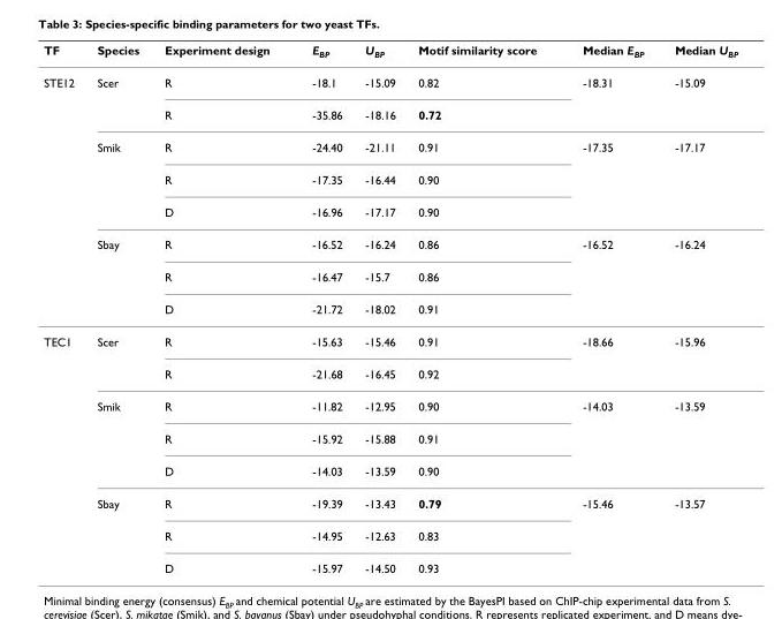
<table><thead><tr><td>TF</td><td>Species</td><td>Experiment design</td><td>E<sub>BP</sub></td><td>U<sub>BP</sub></td><td>Motif similarity score</td><td>Median E<sub>BP</sub></td><td>Median U<sub>BP</sub></td></tr></thead><tbody><tr><td rowspan="8">STE12</td><td>Scer</td><td>R</td><td>-18.1</td><td>-15.09</td><td>0.82</td><td>-18.31</td><td>-15.09</td></tr><tr><td></td><td>R</td><td>-35.86</td><td>-18.16</td><td>0.72</td><td></td><td></td></tr><tr><td>Smik</td><td>R</td><td>-24.40</td><td>-21.11</td><td>0.91</td><td>-17.35</td><td>-17.17</td></tr><tr><td></td><td>R</td><td>-17.35</td><td>-16.44</td><td>0.90</td><td></td><td></td></tr><tr><td></td><td>D</td><td>-16.96</td><td>-17.17</td><td>0.90</td><td></td><td></td></tr><tr><td>Sbay</td><td>R</td><td>-16.52</td><td>-16.24</td><td>0.86</td><td>-16.52</td><td>-16.24</td></tr><tr><td></td><td>R</td><td>-16.47</td><td>-15.7</td><td>0.86</td><td></td><td></td></tr><tr><td></td><td>D</td><td>-21.72</td><td>-18.02</td><td>0.91</td><td></td><td></td></tr><tr><td rowspan="8">TEC1</td><td>Scer</td><td>R</td><td>-15.63</td><td>-15.46</td><td>0.91</td><td>-18.66</td><td>-15.96</td></tr><tr><td></td><td>R</td><td>-21.68</td><td>-16.45</td><td>0.92</td><td></td><td></td></tr><tr><td>Smik</td><td>R</td><td>-11.82</td><td>-12.95</td><td>0.90</td><td>-14.03</td><td>-13.59</td></tr><tr><td></td><td>R</td><td>-15.92</td><td>-15.88</td><td>0.91</td><td></td><td></td></tr><tr><td></td><td>D</td><td>-14.03</td><td>-13.59</td><td>0.90</td><td></td><td></td></tr><tr><td>Sbay</td><td>R</td><td>-19.39</td><td>-13.43</td><td>0.79</td><td>-15.46</td><td>-13.57</td></tr><tr><td></td><td>R</td><td>-14.95</td><td>-12.63</td><td>0.83</td><td></td><td></td></tr><tr><td></td><td>D</td><td>-15.97</td><td>-14.50</td><td>0.93</td><td></td><td></td></tr></tbody></table>